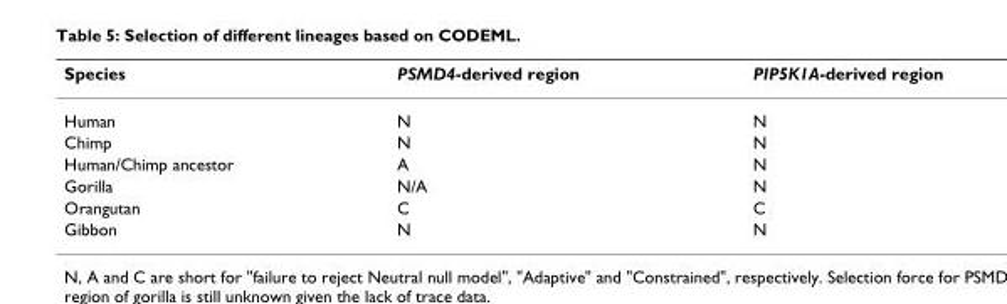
<table><thead><tr><td>Species</td><td>PSMD4-derived region</td><td>PIP5K1A-derived region</td></tr></thead><tbody><tr><td>Human</td><td>N</td><td>N</td></tr><tr><td>Chimp</td><td>N</td><td>N</td></tr><tr><td>Human/Chimp ancestor</td><td>A</td><td>N</td></tr><tr><td>Gorilla</td><td>N/A</td><td>N</td></tr><tr><td>Orangutan</td><td>C</td><td>C</td></tr><tr><td>Gibbon</td><td>N</td><td>N</td></tr></tbody></table>